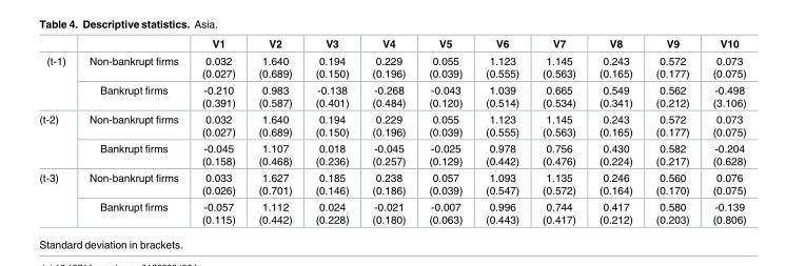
<table><thead><tr><td></td><td></td><td>V1</td><td>V2</td><td>V3</td><td>V4</td><td>V5</td><td>V6</td><td>V7</td><td>V8</td><td>V9</td><td>V10</td></tr></thead><tbody><tr><td rowspan="2">(t-1)</td><td>Non-bankrupt firms</td><td>0.032 (0.027)</td><td>1.640 (0.689)</td><td>0.194 (0.150)</td><td>0.229 (0.196)</td><td>0.055 (0.039)</td><td>1.123 (0.555)</td><td>1.145 (0.563)</td><td>0.243 (0.165)</td><td>0.572 (0.177)</td><td>0.073 (0.075)</td></tr><tr><td>Bankrupt firms</td><td>-0.210 (0.391)</td><td>0.983 (0.587)</td><td>-0.138 (0.401)</td><td>-0.268 (0.484)</td><td>-0.043 (0.120)</td><td>1.039 (0.514)</td><td>0.665 (0.534)</td><td>0.549 (0.341)</td><td>0.562 (0.212)</td><td>-0.498 (3.106)</td></tr><tr><td rowspan="2">(t-2)</td><td>Non-bankrupt firms</td><td>0.032 (0.027)</td><td>1.640 (0.689)</td><td>0.194 (0.150)</td><td>0.229 (0.196)</td><td>0.055 (0.039)</td><td>1.123 (0.555)</td><td>1.145 (0.563)</td><td>0.243 (0.165)</td><td>0.572 (0.177)</td><td>0.073 (0.075)</td></tr><tr><td>Bankrupt firms</td><td>-0.045 (0.158)</td><td>1.107 (0.468)</td><td>0.018 (0.236)</td><td>-0.045 (0.257)</td><td>-0.025 (0.129)</td><td>0.978 (0.442)</td><td>0.756 (0.476)</td><td>0.430 (0.224)</td><td>0.582 (0.217)</td><td>-0.204 (0.628)</td></tr><tr><td rowspan="2">(t-3)</td><td>Non-bankrupt firms</td><td>0.033 (0.026)</td><td>1.627 (0.701)</td><td>0.185 (0.146)</td><td>0.238 (0.186)</td><td>0.057 (0.039)</td><td>1.093 (0.547)</td><td>1.135 (0.572)</td><td>0.246 (0.164)</td><td>0.560 (0.170)</td><td>0.076 (0.075)</td></tr><tr><td>Bankrupt firms</td><td>-0.057 (0.115)</td><td>1.112 (0.442)</td><td>0.024 (0.228)</td><td>-0.021 (0.180)</td><td>-0.007 (0.063)</td><td>0.996 (0.443)</td><td>0.744 (0.417)</td><td>0.417 (0.212)</td><td>0.580 (0.203)</td><td>-0.139 (0.806)</td></tr></tbody></table>